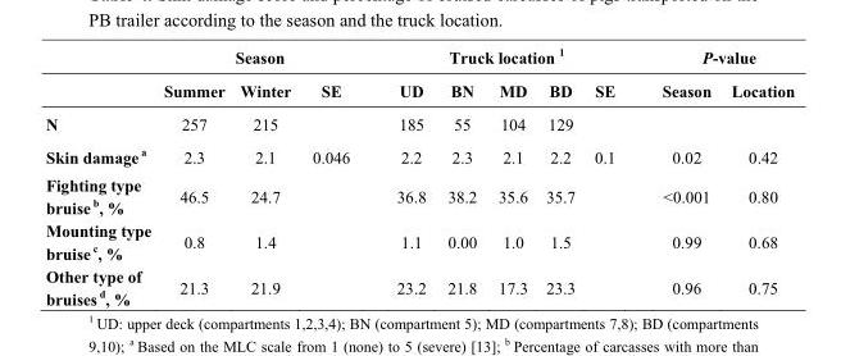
<table><thead><tr><td rowspan="2"></td><td colspan="3">Season</td><td colspan="5">Truck location <sup>1</sup></td><td colspan="2">P-value</td></tr><tr><td>Summer</td><td>Winter</td><td>SE</td><td>UD</td><td>BN</td><td>MD</td><td>BD</td><td>SE</td><td>Season</td><td>Location</td></tr></thead><tbody><tr><td>N</td><td>257</td><td>215</td><td></td><td>185</td><td>55</td><td>104</td><td>129</td><td></td><td></td><td></td></tr><tr><td>Skin damage <sup>a</sup></td><td>2.3</td><td>2.1</td><td>0.046</td><td>2.2</td><td>2.3</td><td>2.1</td><td>2.2</td><td>0.1</td><td>0.02</td><td>0.42</td></tr><tr><td>Fighting type bruise <sup>b</sup>, %</td><td>46.5</td><td>24.7</td><td></td><td>36.8</td><td>38.2</td><td>35.6</td><td>35.7</td><td></td><td>&lt;0.001</td><td>0.80</td></tr><tr><td>Mounting type bruise <sup>c</sup>, %</td><td>0.8</td><td>1.4</td><td></td><td>1.1</td><td>0.00</td><td>1.0</td><td>1.5</td><td></td><td>0.99</td><td>0.68</td></tr><tr><td>Other type of bruises <sup>d</sup>, %</td><td>21.3</td><td>21.9</td><td></td><td>23.2</td><td>21.8</td><td>17.3</td><td>23.3</td><td></td><td>0.96</td><td>0.75</td></tr></tbody></table>